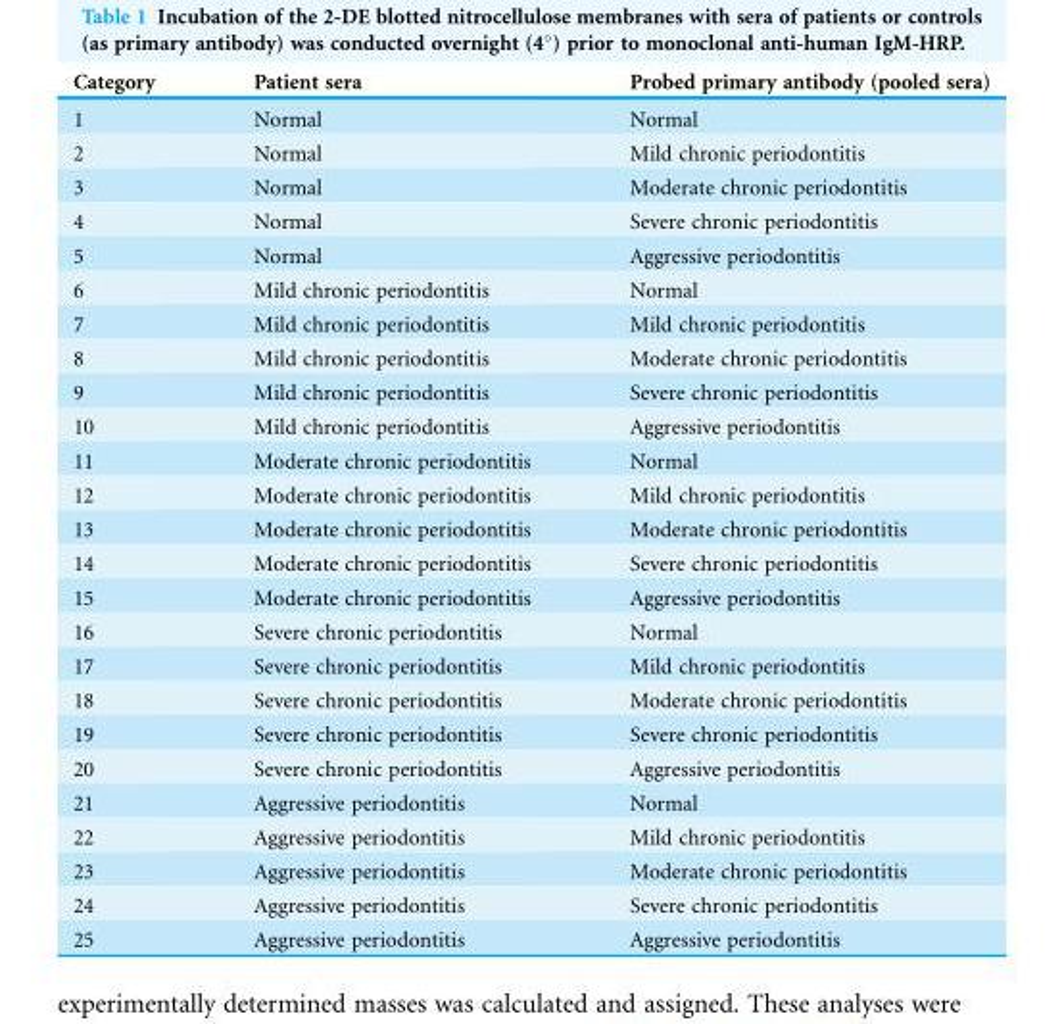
<table><thead><tr><td>Category</td><td>Patient sera</td><td>Probed primary antibody (pooled sera)</td></tr></thead><tbody><tr><td>1</td><td>Normal</td><td>Normal</td></tr><tr><td>2</td><td>Normal</td><td>Mild chronic periodontitis</td></tr><tr><td>3</td><td>Normal</td><td>Moderate chronic periodontitis</td></tr><tr><td>4</td><td>Normal</td><td>Severe chronic periodontitis</td></tr><tr><td>5</td><td>Normal</td><td>Aggressive periodontitis</td></tr><tr><td>6</td><td>Mild chronic periodontitis</td><td>Normal</td></tr><tr><td>7</td><td>Mild chronic periodontitis</td><td>Mild chronic periodontitis</td></tr><tr><td>8</td><td>Mild chronic periodontitis</td><td>Moderate chronic periodontitis</td></tr><tr><td>9</td><td>Mild chronic periodontitis</td><td>Severe chronic periodontitis</td></tr><tr><td>10</td><td>Mild chronic periodontitis</td><td>Aggressive periodontitis</td></tr><tr><td>11</td><td>Moderate chronic periodontitis</td><td>Normal</td></tr><tr><td>12</td><td>Moderate chronic periodontitis</td><td>Mild chronic periodontitis</td></tr><tr><td>13</td><td>Moderate chronic periodontitis</td><td>Moderate chronic periodontitis</td></tr><tr><td>14</td><td>Moderate chronic periodontitis</td><td>Severe chronic periodontitis</td></tr><tr><td>15</td><td>Moderate chronic periodontitis</td><td>Aggressive periodontitis</td></tr><tr><td>16</td><td>Severe chronic periodontitis</td><td>Normal</td></tr><tr><td>17</td><td>Severe chronic periodontitis</td><td>Mild chronic periodontitis</td></tr><tr><td>18</td><td>Severe chronic periodontitis</td><td>Moderate chronic periodontitis</td></tr><tr><td>19</td><td>Severe chronic periodontitis</td><td>Severe chronic periodontitis</td></tr><tr><td>20</td><td>Severe chronic periodontitis</td><td>Aggressive periodontitis</td></tr><tr><td>21</td><td>Aggressive periodontitis</td><td>Normal</td></tr><tr><td>22</td><td>Aggressive periodontitis</td><td>Mild chronic periodontitis</td></tr><tr><td>23</td><td>Aggressive periodontitis</td><td>Moderate chronic periodontitis</td></tr><tr><td>24</td><td>Aggressive periodontitis</td><td>Severe chronic periodontitis</td></tr><tr><td>25</td><td>Aggressive periodontitis</td><td>Aggressive periodontitis</td></tr></tbody></table>